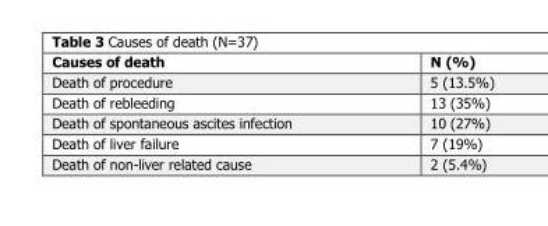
<table><thead><tr><td>Causes of death</td><td>N (%)</td></tr></thead><tbody><tr><td>Death of procedure</td><td>5 (13.5%)</td></tr><tr><td>Death of rebleeding</td><td>13 (35%)</td></tr><tr><td>Death of spontaneous ascites infection</td><td>10 (27%)</td></tr><tr><td>Death of liver failure</td><td>7 (19%)</td></tr><tr><td>Death of non-liver related cause</td><td>2 (5.4%)</td></tr></tbody></table>